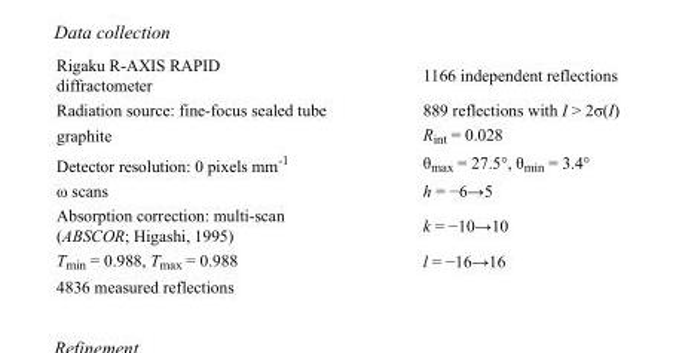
<table><tbody><tr><td>Rigaku R-AXIS RAPID diffractometer</td><td>1166 independent reflections</td></tr><tr><td>Radiation source: fine-focus sealed tube</td><td>889 reflections with I &gt; 2σ(I)</td></tr><tr><td>graphite</td><td>R<sub>int</sub> = 0.028</td></tr><tr><td>Detector resolution: 0 pixels mm<sup>-1</sup></td><td>θ<sub>max</sub> = 27.5°, θ<sub>min</sub> = 3.4°</td></tr><tr><td>ω scans</td><td>h = −6→5</td></tr><tr><td>Absorption correction: multi-scan (ABSCOR; Higashi, 1995)</td><td>k = −10→10</td></tr><tr><td>T<sub>min</sub> = 0.988, T<sub>max</sub> = 0.988</td><td>l = −16→16</td></tr><tr><td>4836 measured reflections</td><td></td></tr></tbody></table>